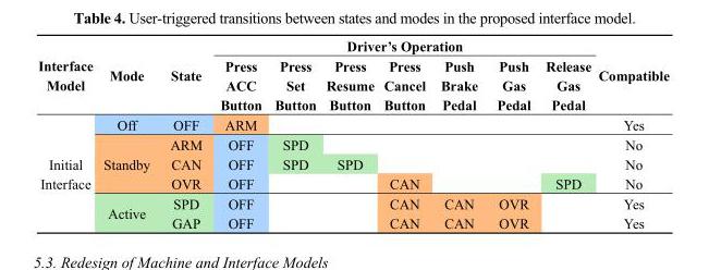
<table><thead><tr><td rowspan="2">Interface Model</td><td rowspan="2">Mode</td><td rowspan="2">State</td><td colspan="7">Driver’s Operation</td><td rowspan="2">Compatible</td></tr><tr><td>Press ACC Button</td><td>Press Set Button</td><td>Press Resume Button</td><td>Press Cancel Button</td><td>Push Brake Pedal</td><td>Push Gas Pedal</td><td>Release Gas Pedal</td></tr></thead><tbody><tr><td rowspan="6">Initial Interface</td><td>Off</td><td>OFF</td><td>ARM</td><td></td><td></td><td></td><td></td><td></td><td></td><td>Yes</td></tr><tr><td rowspan="3">Standby</td><td>ARM</td><td>OFF</td><td>SPD</td><td></td><td></td><td></td><td></td><td></td><td>No</td></tr><tr><td>CAN</td><td>OFF</td><td>SPD</td><td>SPD</td><td></td><td></td><td></td><td></td><td>No</td></tr><tr><td>OVR</td><td>OFF</td><td></td><td></td><td>CAN</td><td></td><td></td><td>SPD</td><td>No</td></tr><tr><td rowspan="2">Active</td><td>SPD</td><td>OFF</td><td></td><td></td><td>CAN</td><td>CAN</td><td>OVR</td><td></td><td>Yes</td></tr><tr><td>GAP</td><td>OFF</td><td></td><td></td><td>CAN</td><td>CAN</td><td>OVR</td><td></td><td>Yes</td></tr></tbody></table>